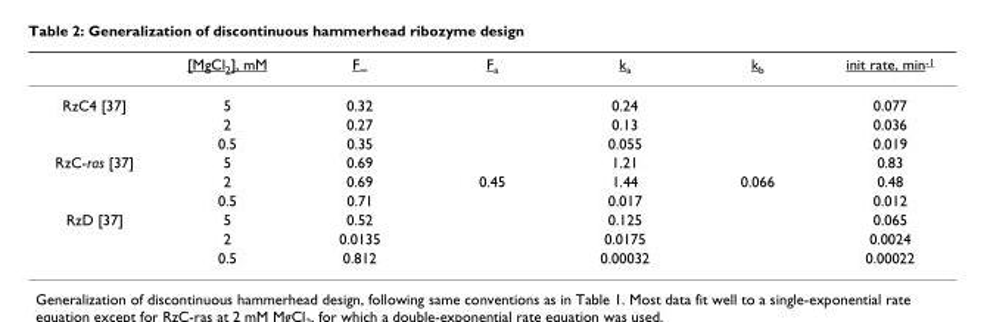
<table><thead><tr><td></td><td>[MgCl<sub>2</sub>], mM</td><td>F<sub>∞</sub></td><td>F<sub>a</sub></td><td>k<sub>a</sub></td><td>k<sub>b</sub></td><td>init rate, min<sup>-1</sup></td></tr></thead><tbody><tr><td rowspan="3">RzC4 [37]</td><td>5</td><td>0.32</td><td></td><td>0.24</td><td></td><td>0.077</td></tr><tr><td>2</td><td>0.27</td><td></td><td>0.13</td><td></td><td>0.036</td></tr><tr><td>0.5</td><td>0.35</td><td></td><td>0.055</td><td></td><td>0.019</td></tr><tr><td rowspan="3">RzC-ras [37]</td><td>5</td><td>0.69</td><td></td><td>1.21</td><td></td><td>0.83</td></tr><tr><td>2</td><td>0.69</td><td>0.45</td><td>1.44</td><td>0.066</td><td>0.48</td></tr><tr><td>0.5</td><td>0.71</td><td></td><td>0.017</td><td></td><td>0.012</td></tr><tr><td rowspan="3">RzD [37]</td><td>5</td><td>0.52</td><td></td><td>0.125</td><td></td><td>0.065</td></tr><tr><td>2</td><td>0.0135</td><td></td><td>0.0175</td><td></td><td>0.0024</td></tr><tr><td>0.5</td><td>0.812</td><td></td><td>0.00032</td><td></td><td>0.00022</td></tr></tbody></table>